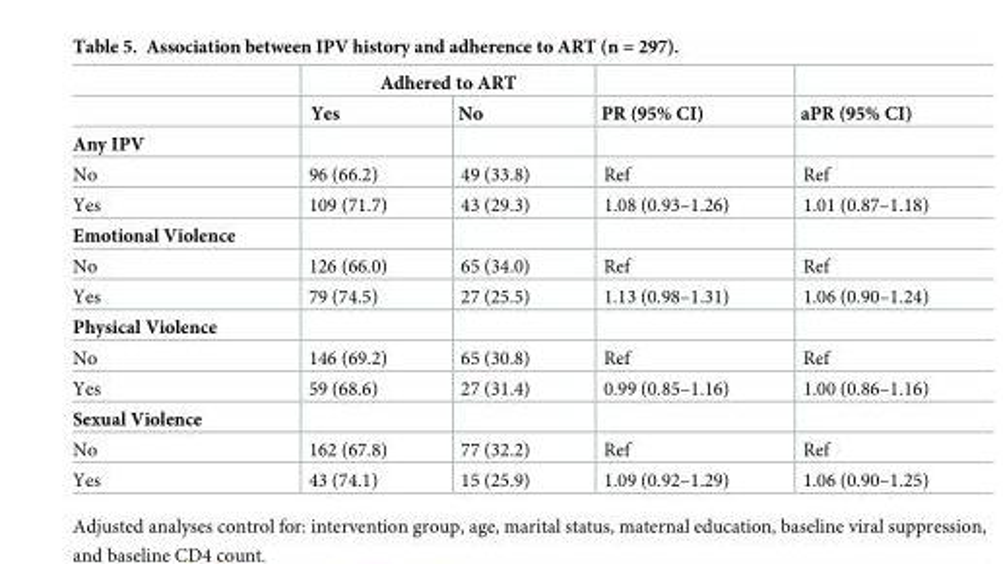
<table><thead><tr><td rowspan="2"></td><td colspan="2">Adhered to ART</td><td rowspan="2">PR (95% CI)</td><td rowspan="2">aPR (95% CI)</td></tr><tr><td>Yes</td><td>No</td></tr></thead><tbody><tr><td colspan="5">Any IPV</td></tr><tr><td>No</td><td>96 (66.2)</td><td>49 (33.8)</td><td>Ref</td><td>Ref</td></tr><tr><td>Yes</td><td>109 (71.7)</td><td>43 (29.3)</td><td>1.08 (0.93–1.26)</td><td>1.01 (0.87–1.18)</td></tr><tr><td colspan="5">Emotional Violence</td></tr><tr><td>No</td><td>126 (66.0)</td><td>65 (34.0)</td><td>Ref</td><td>Ref</td></tr><tr><td>Yes</td><td>79 (74.5)</td><td>27 (25.5)</td><td>1.13 (0.98–1.31)</td><td>1.06 (0.90–1.24)</td></tr><tr><td colspan="5">Physical Violence</td></tr><tr><td>No</td><td>146 (69.2)</td><td>65 (30.8)</td><td>Ref</td><td>Ref</td></tr><tr><td>Yes</td><td>59 (68.6)</td><td>27 (31.4)</td><td>0.99 (0.85–1.16)</td><td>1.00 (0.86–1.16)</td></tr><tr><td colspan="5">Sexual Violence</td></tr><tr><td>No</td><td>162 (67.8)</td><td>77 (32.2)</td><td>Ref</td><td>Ref</td></tr><tr><td>Yes</td><td>43 (74.1)</td><td>15 (25.9)</td><td>1.09 (0.92–1.29)</td><td>1.06 (0.90–1.25)</td></tr></tbody></table>